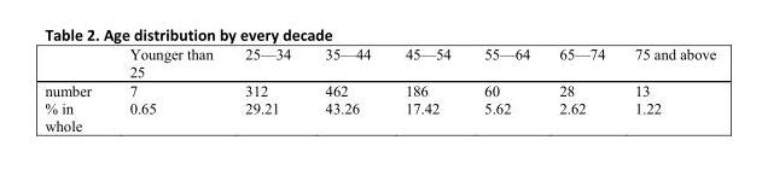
<table><thead><tr><td></td><td>Younger than 25</td><td>25—34</td><td>35—44</td><td>45—54</td><td>55—64</td><td>65—74</td><td>75 and above</td></tr></thead><tbody><tr><td>number</td><td>7</td><td>312</td><td>462</td><td>186</td><td>60</td><td>28</td><td>13</td></tr><tr><td>% in whole</td><td>0.65</td><td>29.21</td><td>43.26</td><td>17.42</td><td>5.62</td><td>2.62</td><td>1.22</td></tr></tbody></table>